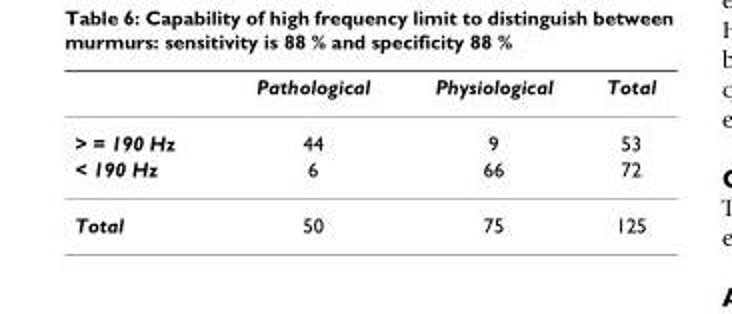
<table><thead><tr><td></td><td>Pathological</td><td>Physiological</td><td>Total</td></tr></thead><tbody><tr><td>&gt; = 190 Hz</td><td>44</td><td>9</td><td>53</td></tr><tr><td>&lt; 190 Hz</td><td>6</td><td>66</td><td>72</td></tr><tr><td>Total</td><td>50</td><td>75</td><td>125</td></tr></tbody></table>